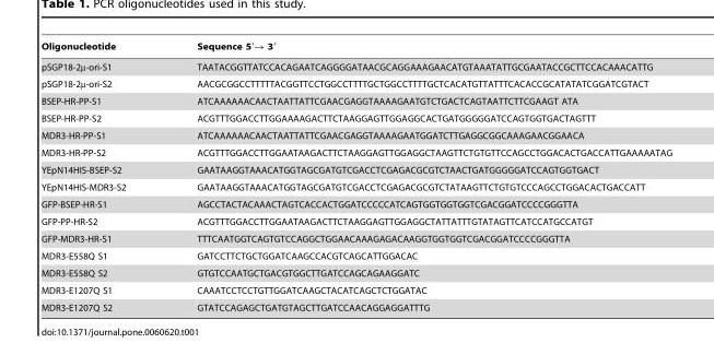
<table><thead><tr><td>Oligonucleotide</td><td>Sequence 5′→ 3′</td></tr></thead><tbody><tr><td>pSGP18-2µ-ori-S1</td><td>TAATACGGTTATCCACAGAATCAGGGGATAACGCAGGAAAGAACATGTAAATATTGCGAATACCGCTTCCACAAACATTG</td></tr><tr><td>pSGP18-2µ-ori-S2</td><td>AACGCGGCCTTTTTACGGTTCCTGGCCTTTTGCTGGCCTTTTGCTCACATGTTATTTCACACCGCATATATCGGATCGTACT</td></tr><tr><td>BSEP-HR-PP-S1</td><td>ATCAAAAAACAACTAATTATTCGAACGAGGTAAAAGAATGTCTGACTCAGTAATTCTTCGAAGT ATA</td></tr><tr><td>BSEP-HR-PP-S2</td><td>ACGTTTGGACCTTGGAAAAGACTTCTAAGGAGTTGGAGGCACTGATGGGGGATCCAGTGGTGACTAGTTT</td></tr><tr><td>MDR3-HR-PP-S1</td><td>ATCAAAAAACAACTAATTATTCGAACGAGGTAAAAGAATGGATCTTGAGGCGGCAAAGAACGGAACA</td></tr><tr><td>MDR3-HR-PP-S2</td><td>ACGTTTGGACCTTGGAATAAGACTTCTAAGGAGTTGGAGGCTAAGTTCTGTGTTCCAGCCTGGACACTGACCATTGAAAAATAG</td></tr><tr><td>YEpN14HIS-BSEP-S2</td><td>GAATAAGGTAAACATGGTAGCGATGTCGACCTCGAGACGCGTCTAACTGATGGGGGATCCAGTGGTGACT</td></tr><tr><td>YEpN14HIS-MDR3-S2</td><td>GAATAAGGTAAACATGGTAGCGATGTCGACCTCGAGACGCGTCTATAAGTTCTGTGTCCCAGCCTGGACACTGACCATT</td></tr><tr><td>GFP-BSEP-HR-S1</td><td>AGCCTACTACAAACTAGTCACCACTGGATCCCCCATCAGTGGTGGTGGTCGACGGATCCCCGGGTTA</td></tr><tr><td>GFP-PP-HR-S2</td><td>ACGTTTGGACCTTGGAATAAGACTTCTAAGGAGTTGGAGGCTATTATTTGTATAGTTCATCCATGCCATGT</td></tr><tr><td>GFP-MDR3-HR-S1</td><td>TTTCAATGGTCAGTGTCCAGGCTGGAACAAAGAGACAAGGTGGTGGTCGACGGATCCCCGGGTTA</td></tr><tr><td>MDR3-E558Q S1</td><td>GATCCTTCTGCTGGATCAAGCCACGTCAGCATTGGACAC</td></tr><tr><td>MDR3-E558Q S2</td><td>GTGTCCAATGCTGACGTGGCTTGATCCAGCAGAAGGATC</td></tr><tr><td>MDR3-E1207Q S1</td><td>CAAATCCTCCTGTTGGATCAAGCTACATCAGCTCTGGATAC</td></tr><tr><td>MDR3-E1207Q S2</td><td>GTATCCAGAGCTGATGTAGCTTGATCCAACAGGAGGATTTG</td></tr></tbody></table>